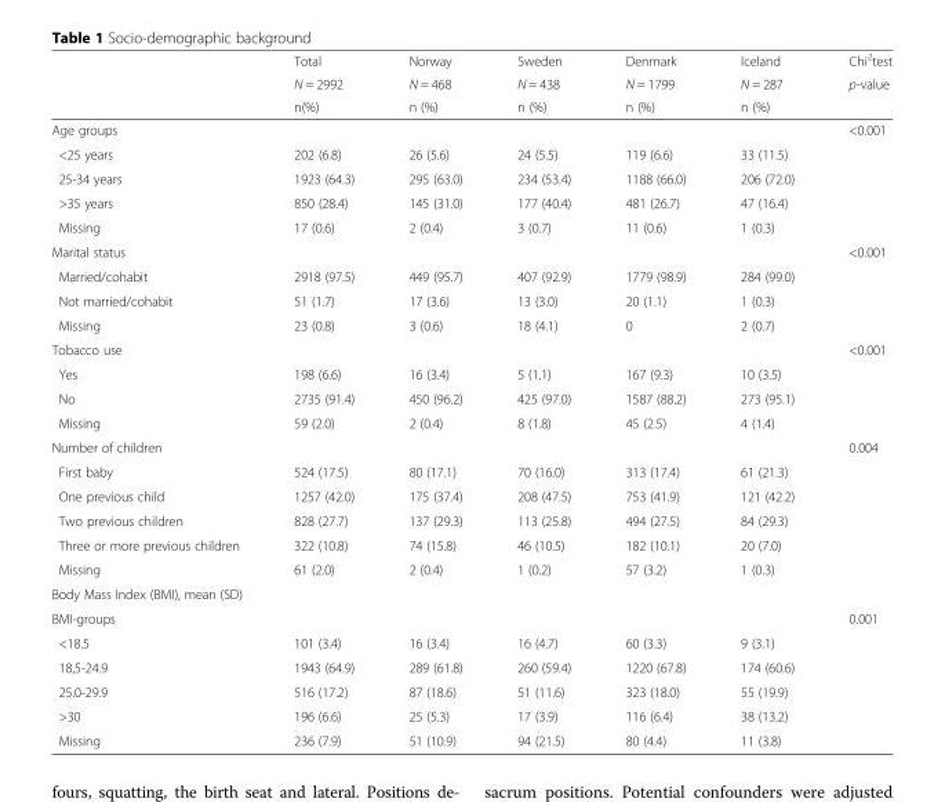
<table><thead><tr><td rowspan="3"></td><td rowspan="3">Total N = 2992 n(%)</td><td rowspan="3">Norway N = 468 n (%)</td><td rowspan="3">Sweden N = 438 n (%)</td><td rowspan="3">Denmark N = 1799 n (%)</td><td rowspan="3">Iceland N = 287 n (%)</td><td rowspan="3">Chi<sup>2</sup>test p-value</td></tr><tr></tr><tr></tr></thead><tbody><tr><td>Age groups</td><td></td><td></td><td></td><td></td><td></td><td>&lt;0.001</td></tr><tr><td>&lt;25 years</td><td>202 (6.8)</td><td>26 (5.6)</td><td>24 (5.5)</td><td>119 (6.6)</td><td>33 (11.5)</td><td></td></tr><tr><td>25-34 years</td><td>1923 (64.3)</td><td>295 (63.0)</td><td>234 (53.4)</td><td>1188 (66.0)</td><td>206 (72.0)</td><td></td></tr><tr><td>&gt;35 years</td><td>850 (28.4)</td><td>145 (31.0)</td><td>177 (40.4)</td><td>481 (26.7)</td><td>47 (16.4)</td><td></td></tr><tr><td>Missing</td><td>17 (0.6)</td><td>2 (0.4)</td><td>3 (0.7)</td><td>11 (0.6)</td><td>1 (0.3)</td><td></td></tr><tr><td>Marital status</td><td></td><td></td><td></td><td></td><td></td><td>&lt;0.001</td></tr><tr><td>Married/cohabit</td><td>2918 (97.5)</td><td>449 (95.7)</td><td>407 (92.9)</td><td>1779 (98.9)</td><td>284 (99.0)</td><td></td></tr><tr><td>Not married/cohabit</td><td>51 (1.7)</td><td>17 (3.6)</td><td>13 (3.0)</td><td>20 (1.1)</td><td>1 (0.3)</td><td></td></tr><tr><td>Missing</td><td>23 (0.8)</td><td>3 (0.6)</td><td>18 (4.1)</td><td>0</td><td>2 (0.7)</td><td></td></tr><tr><td>Tobacco use</td><td></td><td></td><td></td><td></td><td></td><td>&lt;0.001</td></tr><tr><td>Yes</td><td>198 (6.6)</td><td>16 (3.4)</td><td>5 (1.1)</td><td>167 (9.3)</td><td>10 (3.5)</td><td></td></tr><tr><td>No</td><td>2735 (91.4)</td><td>450 (96.2)</td><td>425 (97.0)</td><td>1587 (88.2)</td><td>273 (95.1)</td><td></td></tr><tr><td>Missing</td><td>59 (2.0)</td><td>2 (0.4)</td><td>8 (1.8)</td><td>45 (2.5)</td><td>4 (1.4)</td><td></td></tr><tr><td>Number of children</td><td></td><td></td><td></td><td></td><td></td><td>0.004</td></tr><tr><td>First baby</td><td>524 (17.5)</td><td>80 (17.1)</td><td>70 (16.0)</td><td>313 (17.4)</td><td>61 (21.3)</td><td></td></tr><tr><td>One previous child</td><td>1257 (42.0)</td><td>175 (37.4)</td><td>208 (47.5)</td><td>753 (41.9)</td><td>121 (42.2)</td><td></td></tr><tr><td>Two previous children</td><td>828 (27.7)</td><td>137 (29.3)</td><td>113 (25.8)</td><td>494 (27.5)</td><td>84 (29.3)</td><td></td></tr><tr><td>Three or more previous children</td><td>322 (10.8)</td><td>74 (15.8)</td><td>46 (10.5)</td><td>182 (10.1)</td><td>20 (7.0)</td><td></td></tr><tr><td>Missing</td><td>61 (2.0)</td><td>2 (0.4)</td><td>1 (0.2)</td><td>57 (3.2)</td><td>1 (0.3)</td><td></td></tr><tr><td colspan="7">Body Mass Index (BMI), mean (SD)</td></tr><tr><td>BMI-groups</td><td></td><td></td><td></td><td></td><td></td><td>0.001</td></tr><tr><td>&lt;18.5</td><td>101 (3.4)</td><td>16 (3.4)</td><td>16 (4.7)</td><td>60 (3.3)</td><td>9 (3.1)</td><td></td></tr><tr><td>18,5-24.9</td><td>1943 (64.9)</td><td>289 (61.8)</td><td>260 (59.4)</td><td>1220 (67.8)</td><td>174 (60.6)</td><td></td></tr><tr><td>25.0-29.9</td><td>516 (17.2)</td><td>87 (18.6)</td><td>51 (11.6)</td><td>323 (18.0)</td><td>55 (19.9)</td><td></td></tr><tr><td>&gt;30</td><td>196 (6.6)</td><td>25 (5.3)</td><td>17 (3.9)</td><td>116 (6.4)</td><td>38 (13.2)</td><td></td></tr><tr><td>Missing</td><td>236 (7.9)</td><td>51 (10.9)</td><td>94 (21.5)</td><td>80 (4.4)</td><td>11 (3.8)</td><td></td></tr></tbody></table>